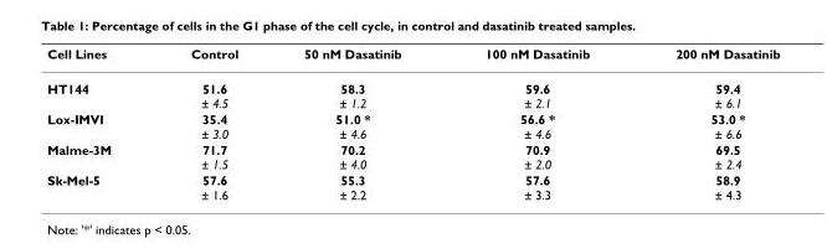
<table><thead><tr><td>Cell Lines</td><td>Control</td><td>50 nM Dasatinib</td><td>100 nM Dasatinib</td><td>200 nM Dasatinib</td></tr></thead><tbody><tr><td>HT144</td><td>51.6 ± 4.5</td><td>58.3 ± 1.2</td><td>59.6 ± 2.1</td><td>59.4 ± 6.1</td></tr><tr><td>Lox-IMVI</td><td>35.4 ± 3.0</td><td>51.0 * ± 4.6</td><td>56.6 * ± 4.6</td><td>53.0 * ± 6.6</td></tr><tr><td>Malme-3M</td><td>71.7 ± 1.5</td><td>70.2 ± 4.0</td><td>70.9 ± 2.0</td><td>69.5 ± 2.4</td></tr><tr><td>Sk-Mel-5</td><td>57.6 ± 1.6</td><td>55.3 ± 2.2</td><td>57.6 ± 3.3</td><td>58.9 ± 4.3</td></tr></tbody></table>